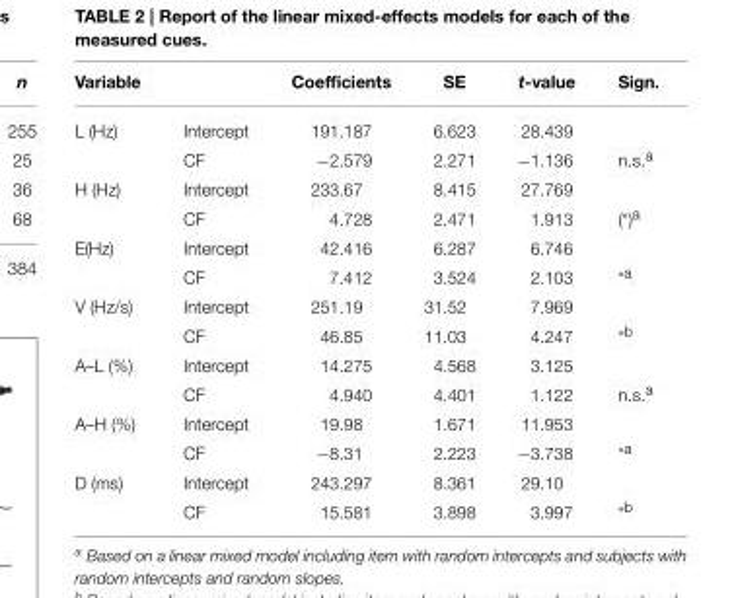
<table><thead><tr><td>Variable</td><td></td><td>Coefficients</td><td>SE</td><td>t-value</td><td>Sign.</td></tr></thead><tbody><tr><td rowspan="2">L (Hz)</td><td>Intercept</td><td>191.187</td><td>6.623</td><td>28.439</td><td></td></tr><tr><td>CF</td><td>−2.579</td><td>2.271</td><td>−1.136</td><td>n.s.<sup>a</sup></td></tr><tr><td rowspan="2">H (Hz)</td><td>Intercept</td><td>233.67</td><td>8.415</td><td>27.769</td><td></td></tr><tr><td>CF</td><td>4.728</td><td>2.471</td><td>1.913</td><td>(*)<sup>a</sup></td></tr><tr><td rowspan="2">E(Hz)</td><td>Intercept</td><td>42.416</td><td>6.287</td><td>6.746</td><td></td></tr><tr><td>CF</td><td>7.412</td><td>3.524</td><td>2.103</td><td><sup>*a</sup></td></tr><tr><td rowspan="2">V (Hz/s)</td><td>Intercept</td><td>251.19</td><td>31.52</td><td>7.969</td><td></td></tr><tr><td>CF</td><td>46.85</td><td>11.03</td><td>4.247</td><td><sup>*b</sup></td></tr><tr><td rowspan="2">A–L (%)</td><td>Intercept</td><td>14.275</td><td>4.568</td><td>3.125</td><td></td></tr><tr><td>CF</td><td>4.940</td><td>4.401</td><td>1.122</td><td>n.s.<sup>a</sup></td></tr><tr><td rowspan="2">A–H (%)</td><td>Intercept</td><td>19.98</td><td>1.671</td><td>11.953</td><td></td></tr><tr><td>CF</td><td>−8.31</td><td>2.223</td><td>−3.738</td><td><sup>*a</sup></td></tr><tr><td rowspan="2">D (ms)</td><td>Intercept</td><td>243.297</td><td>8.361</td><td>29.10</td><td></td></tr><tr><td>CF</td><td>15.581</td><td>3.898</td><td>3.997</td><td><sup>*b</sup></td></tr></tbody></table>